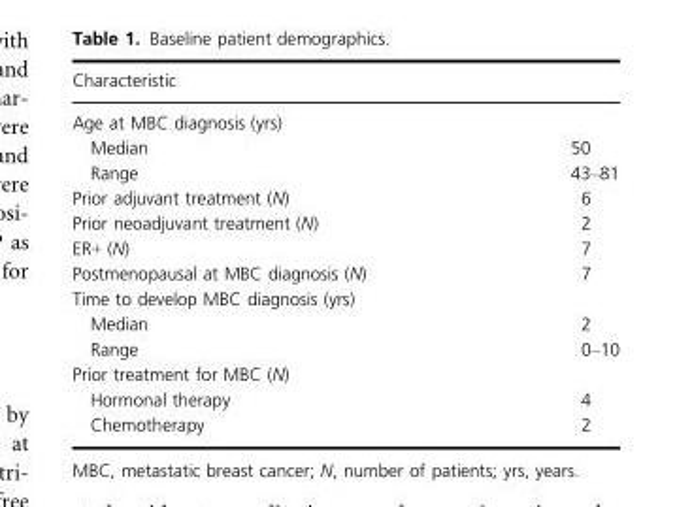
<table><thead><tr><td>Characteristic</td><td></td></tr></thead><tbody><tr><td colspan="2">Age at MBC diagnosis (yrs)</td></tr><tr><td>Median</td><td>50</td></tr><tr><td>Range</td><td>43–81</td></tr><tr><td>Prior adjuvant treatment (N)</td><td>6</td></tr><tr><td>Prior neoadjuvant treatment (N)</td><td>2</td></tr><tr><td>ER+ (N)</td><td>7</td></tr><tr><td>Postmenopausal at MBC diagnosis (N)</td><td>7</td></tr><tr><td colspan="2">Time to develop MBC diagnosis (yrs)</td></tr><tr><td>Median</td><td>2</td></tr><tr><td>Range</td><td>0–10</td></tr><tr><td colspan="2">Prior treatment for MBC (N)</td></tr><tr><td>Hormonal therapy</td><td>4</td></tr><tr><td>Chemotherapy</td><td>2</td></tr></tbody></table>